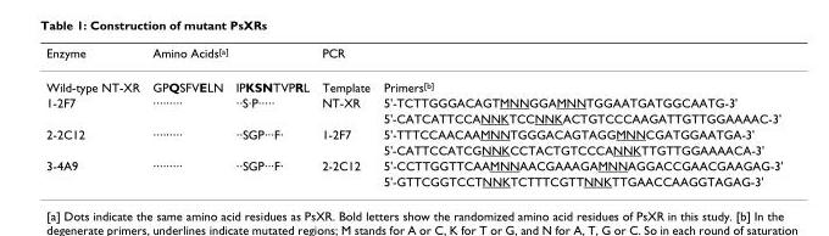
<table><thead><tr><td rowspan="2">Enzyme Wild-type NT-XR</td><td colspan="2">Amino Acids<sup>[a]</sup></td><td colspan="2">PCR</td></tr><tr><td>GPQSFVELN</td><td>IPKSNTVPRL</td><td>Template</td><td>Primers<sup>[b]</sup></td></tr></thead><tbody><tr><td rowspan="2">1-2F7</td><td>·········</td><td>··S·P·····</td><td>NT-XR</td><td>5&#x27;-TCTTGGGACAGTMNNGGAMNNTGGAATGATGGCAATG-3&#x27;</td></tr><tr><td></td><td></td><td></td><td>5&#x27;-CATCATTCCANNKTCCNNKACTGTCCCAAGATTGTTGGAAAAC-3&#x27;</td></tr><tr><td rowspan="2">2-2C12</td><td>·········</td><td>··SGP···F·</td><td>1-2F7</td><td>5&#x27;-TTTCCAACAAMNNTGGGACAGTAGGMNNCGATGGAATGA-3&#x27;</td></tr><tr><td></td><td></td><td></td><td>5&#x27;-CATTCCATCGNNKCCTACTGTCCCANNKTTGTTGGAAAACA-3&#x27;</td></tr><tr><td rowspan="2">3-4A9</td><td>·········</td><td>··SGP···F·</td><td>2-2C12</td><td>5&#x27;-CCTTGGTTCAAMNNAACGAAAGAMNNAGGACCGAACGAAGAG-3&#x27;</td></tr><tr><td></td><td></td><td></td><td>5&#x27;-GTTCGGTCCTNNKTCTTTCGTTNNKTTGAACCAAGGTAGAG-3&#x27;</td></tr></tbody></table>